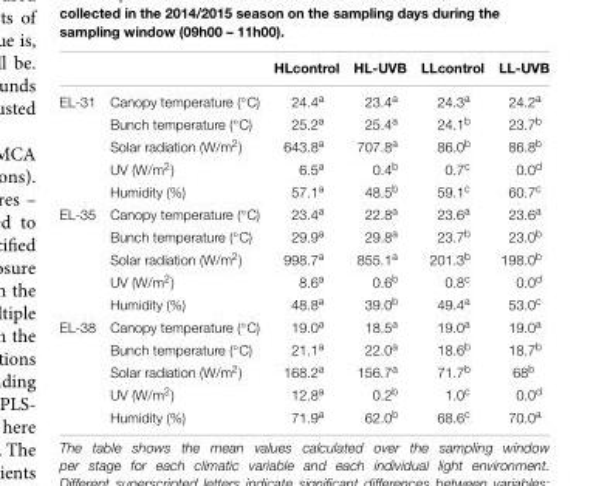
<table><thead><tr><td></td><td></td><td>HLcontrol</td><td>HL-UVB</td><td>LLcontrol</td><td>LL-UVB</td></tr></thead><tbody><tr><td rowspan="5">EL-31</td><td>Canopy temperature (◦C)</td><td>24.4<sup>a</sup></td><td>23.4<sup>a</sup></td><td>24.3<sup>a</sup></td><td>24.2<sup>a</sup></td></tr><tr><td>Bunch temperature (◦C)</td><td>25.2<sup>a</sup></td><td>25.4<sup>a</sup></td><td>24.1<sup>b</sup></td><td>23.7<sup>b</sup></td></tr><tr><td>Solar radiation (W/m<sup>2</sup>)</td><td>643.8<sup>a</sup></td><td>707.8<sup>a</sup></td><td>86.0<sup>b</sup></td><td>86.8<sup>b</sup></td></tr><tr><td>UV (W/m<sup>2</sup>)</td><td>6.5<sup>a</sup></td><td>0.4<sup>b</sup></td><td>0.7<sup>c</sup></td><td>0.0<sup>d</sup></td></tr><tr><td>Humidity (%)</td><td>57.1<sup>a</sup></td><td>48.5<sup>b</sup></td><td>59.1<sup>c</sup></td><td>60.7<sup>c</sup></td></tr><tr><td rowspan="5">EL-35</td><td>Canopy temperature (◦C)</td><td>23.4<sup>a</sup></td><td>22.8<sup>a</sup></td><td>23.6<sup>a</sup></td><td>23.6<sup>a</sup></td></tr><tr><td>Bunch temperature (◦C)</td><td>29.9<sup>a</sup></td><td>29.8<sup>a</sup></td><td>23.7<sup>b</sup></td><td>23.0<sup>b</sup></td></tr><tr><td>Solar radiation (W/m<sup>2</sup>)</td><td>998.7<sup>a</sup></td><td>855.1<sup>a</sup></td><td>201.3<sup>b</sup></td><td>198.0<sup>b</sup></td></tr><tr><td>UV (W/m<sup>2</sup>)</td><td>8.6<sup>a</sup></td><td>0.6<sup>b</sup></td><td>0.8<sup>c</sup></td><td>0.0<sup>d</sup></td></tr><tr><td>Humidity (%)</td><td>48.8<sup>a</sup></td><td>39.0<sup>b</sup></td><td>49.4<sup>a</sup></td><td>53.0<sup>c</sup></td></tr><tr><td rowspan="5">EL-38</td><td>Canopy temperature (◦C)</td><td>19.0<sup>a</sup></td><td>18.5<sup>a</sup></td><td>19.0<sup>a</sup></td><td>19.0<sup>a</sup></td></tr><tr><td>Bunch temperature (◦C)</td><td>21.1<sup>a</sup></td><td>22.0<sup>a</sup></td><td>18.6<sup>b</sup></td><td>18.7<sup>b</sup></td></tr><tr><td>Solar radiation (W/m<sup>2</sup>)</td><td>168.2<sup>a</sup></td><td>156.7<sup>a</sup></td><td>71.7<sup>b</sup></td><td>68<sup>b</sup></td></tr><tr><td>UV (W/m<sup>2</sup>)</td><td>12.8<sup>a</sup></td><td>0.2<sup>b</sup></td><td>1.0<sup>c</sup></td><td>0.0<sup>d</sup></td></tr><tr><td>Humidity (%)</td><td>71.9<sup>a</sup></td><td>62.0<sup>b</sup></td><td>68.6<sup>c</sup></td><td>70.0<sup>a</sup></td></tr></tbody></table>